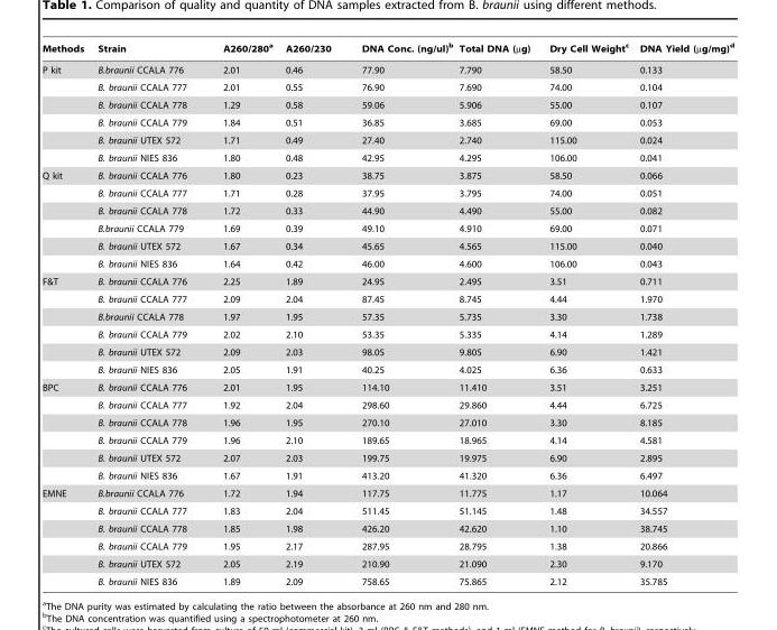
<table><thead><tr><td>Methods</td><td>Strain</td><td>A260/280<sup>a</sup></td><td>A260/230</td><td>DNA Conc. (ng/ul)<sup>b</sup></td><td>Total DNA (µg)</td><td>Dry Cell Weight<sup>c</sup></td><td>DNA Yield (µg/mg)<sup>d</sup></td></tr></thead><tbody><tr><td rowspan="6">P kit</td><td>B.braunii CCALA 776</td><td>2.01</td><td>0.46</td><td>77.90</td><td>7.790</td><td>58.50</td><td>0.133</td></tr><tr><td>B. braunii CCALA 777</td><td>2.01</td><td>0.55</td><td>76.90</td><td>7.690</td><td>74.00</td><td>0.104</td></tr><tr><td>B. braunii CCALA 778</td><td>1.29</td><td>0.58</td><td>59.06</td><td>5.906</td><td>55.00</td><td>0.107</td></tr><tr><td>B. braunii CCALA 779</td><td>1.84</td><td>0.51</td><td>36.85</td><td>3.685</td><td>69.00</td><td>0.053</td></tr><tr><td>B. braunii UTEX 572</td><td>1.71</td><td>0.49</td><td>27.40</td><td>2.740</td><td>115.00</td><td>0.024</td></tr><tr><td>B. braunii NIES 836</td><td>1.80</td><td>0.48</td><td>42.95</td><td>4.295</td><td>106.00</td><td>0.041</td></tr><tr><td rowspan="6">Q kit</td><td>B. braunii CCALA 776</td><td>1.80</td><td>0.23</td><td>38.75</td><td>3.875</td><td>58.50</td><td>0.066</td></tr><tr><td>B. braunii CCALA 777</td><td>1.71</td><td>0.28</td><td>37.95</td><td>3.795</td><td>74.00</td><td>0.051</td></tr><tr><td>B. braunii CCALA 778</td><td>1.72</td><td>0.33</td><td>44.90</td><td>4.490</td><td>55.00</td><td>0.082</td></tr><tr><td>B.braunii CCALA 779</td><td>1.69</td><td>0.39</td><td>49.10</td><td>4.910</td><td>69.00</td><td>0.071</td></tr><tr><td>B. braunii UTEX 572</td><td>1.67</td><td>0.34</td><td>45.65</td><td>4.565</td><td>115.00</td><td>0.040</td></tr><tr><td>B. braunii NIES 836</td><td>1.64</td><td>0.42</td><td>46.00</td><td>4.600</td><td>106.00</td><td>0.043</td></tr><tr><td rowspan="6">F&amp;T</td><td>B. braunii CCALA 776</td><td>2.25</td><td>1.89</td><td>24.95</td><td>2.495</td><td>3.51</td><td>0.711</td></tr><tr><td>B. braunii CCALA 777</td><td>2.09</td><td>2.04</td><td>87.45</td><td>8.745</td><td>4.44</td><td>1.970</td></tr><tr><td>B.braunii CCALA 778</td><td>1.97</td><td>1.95</td><td>57.35</td><td>5.735</td><td>3.30</td><td>1.738</td></tr><tr><td>B. braunii CCALA 779</td><td>2.02</td><td>2.10</td><td>53.35</td><td>5.335</td><td>4.14</td><td>1.289</td></tr><tr><td>B. braunii UTEX 572</td><td>2.09</td><td>2.03</td><td>98.05</td><td>9.805</td><td>6.90</td><td>1.421</td></tr><tr><td>B. braunii NIES 836</td><td>2.05</td><td>1.91</td><td>40.25</td><td>4.025</td><td>6.36</td><td>0.633</td></tr><tr><td rowspan="6">BPC</td><td>B. braunii CCALA 776</td><td>2.01</td><td>1.95</td><td>114.10</td><td>11.410</td><td>3.51</td><td>3.251</td></tr><tr><td>B. braunii CCALA 777</td><td>1.92</td><td>2.04</td><td>298.60</td><td>29.860</td><td>4.44</td><td>6.725</td></tr><tr><td>B. braunii CCALA 778</td><td>1.96</td><td>1.95</td><td>270.10</td><td>27.010</td><td>3.30</td><td>8.185</td></tr><tr><td>B. braunii CCALA 779</td><td>1.96</td><td>2.10</td><td>189.65</td><td>18.965</td><td>4.14</td><td>4.581</td></tr><tr><td>B. braunii UTEX 572</td><td>2.07</td><td>2.03</td><td>199.75</td><td>19.975</td><td>6.90</td><td>2.895</td></tr><tr><td>B. braunii NIES 836</td><td>1.67</td><td>1.91</td><td>413.20</td><td>41.320</td><td>6.36</td><td>6.497</td></tr><tr><td rowspan="6">EMNE</td><td>B.braunii CCALA 776</td><td>1.72</td><td>1.94</td><td>117.75</td><td>11.775</td><td>1.17</td><td>10.064</td></tr><tr><td>B. braunii CCALA 777</td><td>1.83</td><td>2.04</td><td>511.45</td><td>51.145</td><td>1.48</td><td>34.557</td></tr><tr><td>B. braunii CCALA 778</td><td>1.85</td><td>1.98</td><td>426.20</td><td>42.620</td><td>1.10</td><td>38.745</td></tr><tr><td>B. braunii CCALA 779</td><td>1.95</td><td>2.17</td><td>287.95</td><td>28.795</td><td>1.38</td><td>20.866</td></tr><tr><td>B. braunii UTEX 572</td><td>2.05</td><td>2.19</td><td>210.90</td><td>21.090</td><td>2.30</td><td>9.170</td></tr><tr><td>B. braunii NIES 836</td><td>1.89</td><td>2.09</td><td>758.65</td><td>75.865</td><td>2.12</td><td>35.785</td></tr></tbody></table>